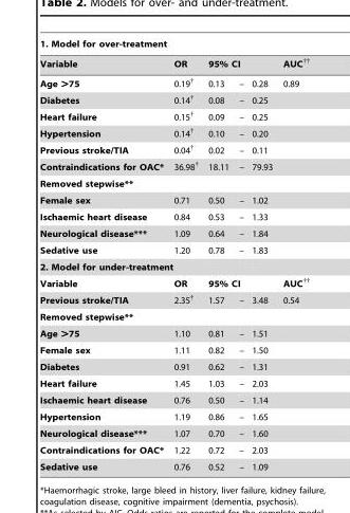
<table><thead><tr><td colspan="6">1. Model for over-treatment</td></tr><tr><td rowspan="2">Variable Age &gt;75</td><td rowspan="2">OR 0.19†</td><td colspan="3">95% CI</td><td rowspan="2">AUC†† 0.89</td></tr><tr><td>0.13</td><td>–</td><td>0.28</td></tr></thead><tbody><tr><td>Diabetes</td><td>0.14†</td><td>0.08</td><td>–</td><td>0.25</td><td></td></tr><tr><td>Heart failure</td><td>0.15†</td><td>0.09</td><td>–</td><td>0.25</td><td></td></tr><tr><td>Hypertension</td><td>0.14†</td><td>0.10</td><td>–</td><td>0.20</td><td></td></tr><tr><td>Previous stroke/TIA</td><td>0.04†</td><td>0.02</td><td>–</td><td>0.11</td><td></td></tr><tr><td>Contraindications for OAC*</td><td>36.98†</td><td>18.11</td><td>–</td><td>79.93</td><td></td></tr><tr><td colspan="6">Removed stepwise**</td></tr><tr><td>Female sex</td><td>0.71</td><td>0.50</td><td>–</td><td>1.02</td><td></td></tr><tr><td>Ischaemic heart disease</td><td>0.84</td><td>0.53</td><td>–</td><td>1.33</td><td></td></tr><tr><td>Neurological disease***</td><td>1.09</td><td>0.64</td><td>–</td><td>1.84</td><td></td></tr><tr><td>Sedative use</td><td>1.20</td><td>0.78</td><td>–</td><td>1.83</td><td></td></tr><tr><td colspan="6">2. Model for under-treatment</td></tr><tr><td>Variable</td><td>OR</td><td colspan="3">95% CI</td><td>AUC††</td></tr><tr><td>Previous stroke/TIA</td><td>2.35†</td><td>1.57</td><td>–</td><td>3.48</td><td>0.54</td></tr><tr><td colspan="6">Removed stepwise**</td></tr><tr><td>Age &gt;75</td><td>1.10</td><td>0.81</td><td>–</td><td>1.51</td><td></td></tr><tr><td>Female sex</td><td>1.11</td><td>0.82</td><td>–</td><td>1.50</td><td></td></tr><tr><td>Diabetes</td><td>0.91</td><td>0.62</td><td>–</td><td>1.31</td><td></td></tr><tr><td>Heart failure</td><td>1.45</td><td>1.03</td><td>–</td><td>2.03</td><td></td></tr><tr><td>Ischaemic heart disease</td><td>0.76</td><td>0.50</td><td>–</td><td>1.14</td><td></td></tr><tr><td>Hypertension</td><td>1.19</td><td>0.86</td><td>–</td><td>1.65</td><td></td></tr><tr><td>Neurological disease***</td><td>1.07</td><td>0.70</td><td>–</td><td>1.60</td><td></td></tr><tr><td>Contraindications for OAC*</td><td>1.22</td><td>0.72</td><td>–</td><td>2.03</td><td></td></tr><tr><td>Sedative use</td><td>0.76</td><td>0.52</td><td>–</td><td>1.09</td><td></td></tr></tbody></table>